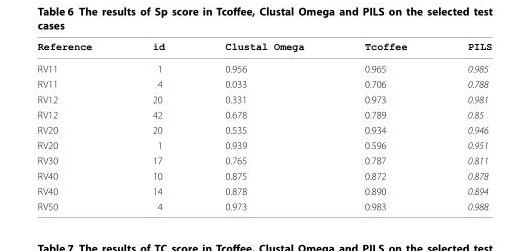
<table><thead><tr><td>Reference</td><td>id</td><td>Clustal Omega</td><td>Tcoffee</td><td>PILS</td></tr></thead><tbody><tr><td>RV11</td><td>1</td><td>0.956</td><td>0.965</td><td>0.985</td></tr><tr><td>RV11</td><td>4</td><td>0.033</td><td>0.706</td><td>0.788</td></tr><tr><td>RV12</td><td>20</td><td>0.331</td><td>0.973</td><td>0.981</td></tr><tr><td>RV12</td><td>42</td><td>0.678</td><td>0.789</td><td>0.85</td></tr><tr><td>RV20</td><td>20</td><td>0.535</td><td>0.934</td><td>0.946</td></tr><tr><td>RV20</td><td>1</td><td>0.939</td><td>0.596</td><td>0.951</td></tr><tr><td>RV30</td><td>17</td><td>0.765</td><td>0.787</td><td>0.811</td></tr><tr><td>RV40</td><td>10</td><td>0.875</td><td>0.872</td><td>0.878</td></tr><tr><td>RV40</td><td>14</td><td>0.878</td><td>0.890</td><td>0.894</td></tr><tr><td>RV50</td><td>4</td><td>0.973</td><td>0.983</td><td>0.988</td></tr></tbody></table>